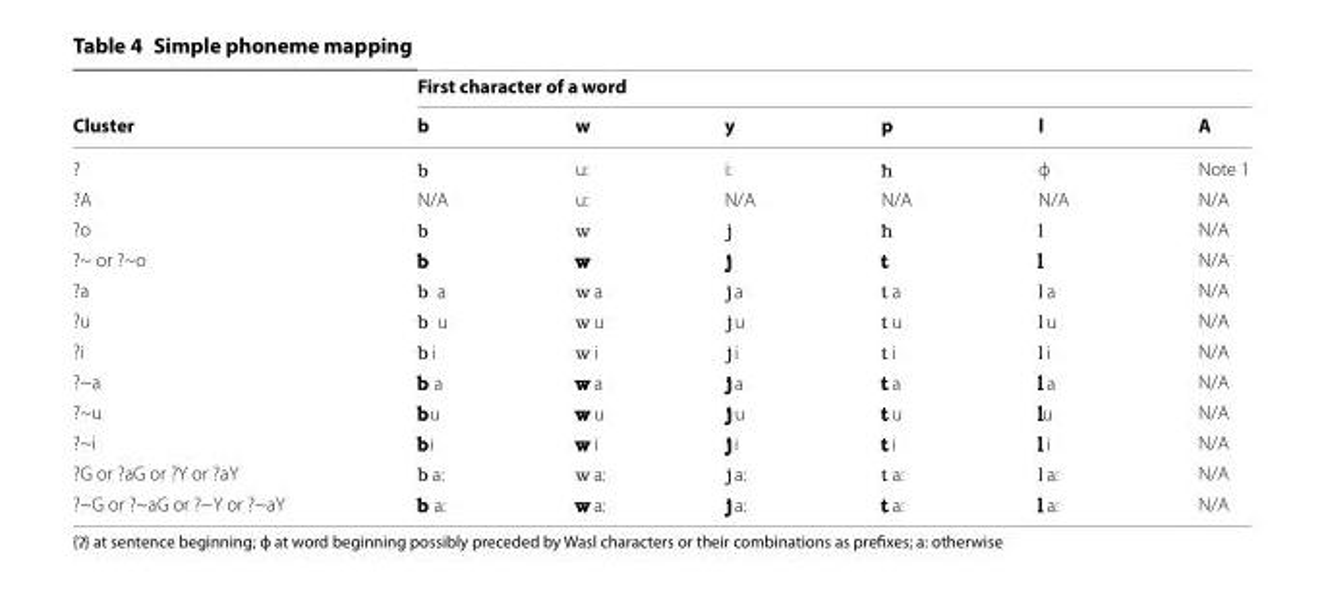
<table><thead><tr><td rowspan="2">Cluster</td><td colspan="6">First character of a word</td></tr><tr><td>b</td><td>w</td><td>y</td><td>p</td><td>l</td><td>A</td></tr></thead><tbody><tr><td>?</td><td>&quot;</td><td>u:</td><td>i:</td><td>L</td><td>ф</td><td>Note 1</td></tr><tr><td>?A</td><td>N/A</td><td>u:</td><td>N/A</td><td>N/A</td><td>N/A</td><td>N/A</td></tr><tr><td>?o</td><td>&quot;</td><td>f</td><td>U</td><td>L</td><td>W</td><td>N/A</td></tr><tr><td>?~ or ?~o</td><td>&quot;</td><td>f</td><td>U</td><td>#</td><td>W</td><td>N/A</td></tr><tr><td>?a</td><td>&quot; a</td><td>f a</td><td>U a</td><td># a</td><td>W a</td><td>N/A</td></tr><tr><td>?u</td><td>&quot; u</td><td>f u</td><td>U u</td><td># u</td><td>W u</td><td>N/A</td></tr><tr><td>?i</td><td>&quot; i</td><td>f i</td><td>U i</td><td># i</td><td>W i</td><td>N/A</td></tr><tr><td>?~a</td><td>&quot; a</td><td>f a</td><td>U a</td><td># a</td><td>W a</td><td>N/A</td></tr><tr><td>?~u</td><td>&quot;u</td><td>f u</td><td>U u</td><td># u</td><td>Wu</td><td>N/A</td></tr><tr><td>?~i</td><td>&quot;i</td><td>f i</td><td>U i</td><td># i</td><td>W i</td><td>N/A</td></tr><tr><td>?G or ?aG or ?Y or ?aY</td><td>&quot; a:</td><td>f a:</td><td>U a:</td><td># a:</td><td>W a:</td><td>N/A</td></tr><tr><td>?~G or ?~aG or ?~Y or ?~aY</td><td>&quot; a:</td><td>f a:</td><td>U a:</td><td># a:</td><td>W a:</td><td>N/A</td></tr></tbody></table>